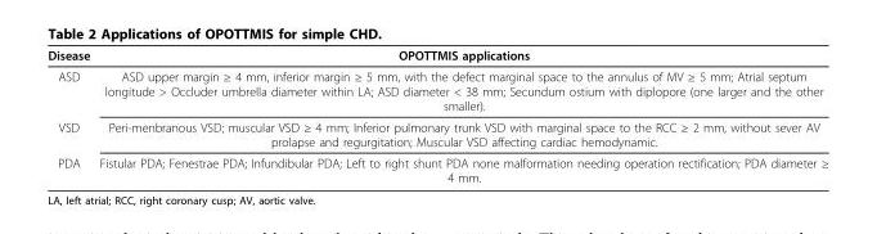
<table><thead><tr><td>Disease</td><td>OPOTTMIS applications</td></tr></thead><tbody><tr><td>ASD</td><td>ASD upper margin ≥ 4 mm, inferior margin ≥ 5 mm, with the defect marginal space to the annulus of MV ≥ 5 mm; Atrial septum longitude &gt; Occluder umbrella diameter within LA; ASD diameter &lt; 38 mm; Secundum ostium with diplopore (one larger and the other smaller).</td></tr><tr><td>VSD</td><td>Peri-menbranous VSD; muscular VSD ≥ 4 mm; Inferior pulmonary trunk VSD with marginal space to the RCC ≥ 2 mm, without sever AV prolapse and regurgitation; Muscular VSD affecting cardiac hemodynamic.</td></tr><tr><td>PDA</td><td>Fistular PDA; Fenestrae PDA; Infundibular PDA; Left to right shunt PDA none malformation needing operation rectification; PDA diameter ≥ 4 mm.</td></tr></tbody></table>